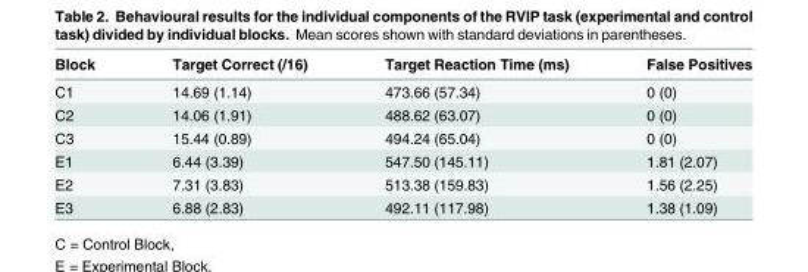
<table><thead><tr><td>Block</td><td>Target Correct (/16)</td><td>Target Reaction Time (ms)</td><td>False Positives</td></tr></thead><tbody><tr><td>C1</td><td>14.69 (1.14)</td><td>473.66 (57.34)</td><td>0 (0)</td></tr><tr><td>C2</td><td>14.06 (1.91)</td><td>488.62 (63.07)</td><td>0 (0)</td></tr><tr><td>C3</td><td>15.44 (0.89)</td><td>494.24 (65.04)</td><td>0 (0)</td></tr><tr><td>E1</td><td>6.44 (3.39)</td><td>547.50 (145.11)</td><td>1.81 (2.07)</td></tr><tr><td>E2</td><td>7.31 (3.83)</td><td>513.38 (159.83)</td><td>1.56 (2.25)</td></tr><tr><td>E3</td><td>6.88 (2.83)</td><td>492.11 (117.98)</td><td>1.38 (1.09)</td></tr></tbody></table>